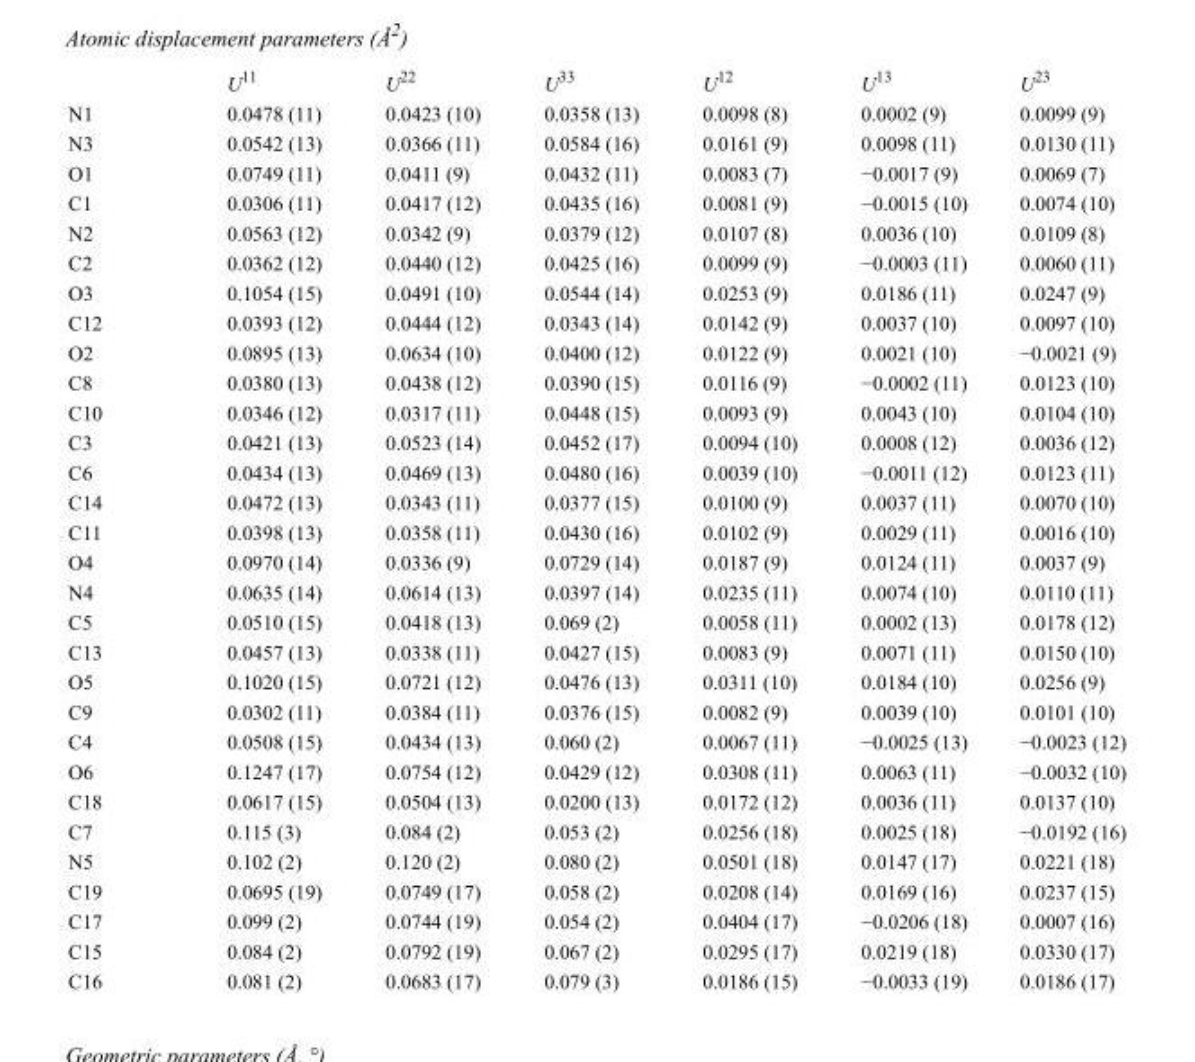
<table><thead><tr><td></td><td>U<sup>11</sup></td><td>U<sup>22</sup></td><td>U<sup>33</sup></td><td>U<sup>12</sup></td><td>U<sup>13</sup></td><td>U<sup>23</sup></td></tr></thead><tbody><tr><td>N1</td><td>0.0478 (11)</td><td>0.0423 (10)</td><td>0.0358 (13)</td><td>0.0098 (8)</td><td>0.0002 (9)</td><td>0.0099 (9)</td></tr><tr><td>N3</td><td>0.0542 (13)</td><td>0.0366 (11)</td><td>0.0584 (16)</td><td>0.0161 (9)</td><td>0.0098 (11)</td><td>0.0130 (11)</td></tr><tr><td>O1</td><td>0.0749 (11)</td><td>0.0411 (9)</td><td>0.0432 (11)</td><td>0.0083 (7)</td><td>−0.0017 (9)</td><td>0.0069 (7)</td></tr><tr><td>C1</td><td>0.0306 (11)</td><td>0.0417 (12)</td><td>0.0435 (16)</td><td>0.0081 (9)</td><td>−0.0015 (10)</td><td>0.0074 (10)</td></tr><tr><td>N2</td><td>0.0563 (12)</td><td>0.0342 (9)</td><td>0.0379 (12)</td><td>0.0107 (8)</td><td>0.0036 (10)</td><td>0.0109 (8)</td></tr><tr><td>C2</td><td>0.0362 (12)</td><td>0.0440 (12)</td><td>0.0425 (16)</td><td>0.0099 (9)</td><td>−0.0003 (11)</td><td>0.0060 (11)</td></tr><tr><td>O3</td><td>0.1054 (15)</td><td>0.0491 (10)</td><td>0.0544 (14)</td><td>0.0253 (9)</td><td>0.0186 (11)</td><td>0.0247 (9)</td></tr><tr><td>C12</td><td>0.0393 (12)</td><td>0.0444 (12)</td><td>0.0343 (14)</td><td>0.0142 (9)</td><td>0.0037 (10)</td><td>0.0097 (10)</td></tr><tr><td>O2</td><td>0.0895 (13)</td><td>0.0634 (10)</td><td>0.0400 (12)</td><td>0.0122 (9)</td><td>0.0021 (10)</td><td>−0.0021 (9)</td></tr><tr><td>C8</td><td>0.0380 (13)</td><td>0.0438 (12)</td><td>0.0390 (15)</td><td>0.0116 (9)</td><td>−0.0002 (11)</td><td>0.0123 (10)</td></tr><tr><td>C10</td><td>0.0346 (12)</td><td>0.0317 (11)</td><td>0.0448 (15)</td><td>0.0093 (9)</td><td>0.0043 (10)</td><td>0.0104 (10)</td></tr><tr><td>C3</td><td>0.0421 (13)</td><td>0.0523 (14)</td><td>0.0452 (17)</td><td>0.0094 (10)</td><td>0.0008 (12)</td><td>0.0036 (12)</td></tr><tr><td>C6</td><td>0.0434 (13)</td><td>0.0469 (13)</td><td>0.0480 (16)</td><td>0.0039 (10)</td><td>−0.0011 (12)</td><td>0.0123 (11)</td></tr><tr><td>C14</td><td>0.0472 (13)</td><td>0.0343 (11)</td><td>0.0377 (15)</td><td>0.0100 (9)</td><td>0.0037 (11)</td><td>0.0070 (10)</td></tr><tr><td>C11</td><td>0.0398 (13)</td><td>0.0358 (11)</td><td>0.0430 (16)</td><td>0.0102 (9)</td><td>0.0029 (11)</td><td>0.0016 (10)</td></tr><tr><td>O4</td><td>0.0970 (14)</td><td>0.0336 (9)</td><td>0.0729 (14)</td><td>0.0187 (9)</td><td>0.0124 (11)</td><td>0.0037 (9)</td></tr><tr><td>N4</td><td>0.0635 (14)</td><td>0.0614 (13)</td><td>0.0397 (14)</td><td>0.0235 (11)</td><td>0.0074 (10)</td><td>0.0110 (11)</td></tr><tr><td>C5</td><td>0.0510 (15)</td><td>0.0418 (13)</td><td>0.069 (2)</td><td>0.0058 (11)</td><td>0.0002 (13)</td><td>0.0178 (12)</td></tr><tr><td>C13</td><td>0.0457 (13)</td><td>0.0338 (11)</td><td>0.0427 (15)</td><td>0.0083 (9)</td><td>0.0071 (11)</td><td>0.0150 (10)</td></tr><tr><td>O5</td><td>0.1020 (15)</td><td>0.0721 (12)</td><td>0.0476 (13)</td><td>0.0311 (10)</td><td>0.0184 (10)</td><td>0.0256 (9)</td></tr><tr><td>C9</td><td>0.0302 (11)</td><td>0.0384 (11)</td><td>0.0376 (15)</td><td>0.0082 (9)</td><td>0.0039 (10)</td><td>0.0101 (10)</td></tr><tr><td>C4</td><td>0.0508 (15)</td><td>0.0434 (13)</td><td>0.060 (2)</td><td>0.0067 (11)</td><td>−0.0025 (13)</td><td>−0.0023 (12)</td></tr><tr><td>O6</td><td>0.1247 (17)</td><td>0.0754 (12)</td><td>0.0429 (12)</td><td>0.0308 (11)</td><td>0.0063 (11)</td><td>−0.0032 (10)</td></tr><tr><td>C18</td><td>0.0617 (15)</td><td>0.0504 (13)</td><td>0.0200 (13)</td><td>0.0172 (12)</td><td>0.0036 (11)</td><td>0.0137 (10)</td></tr><tr><td>C7</td><td>0.115 (3)</td><td>0.084 (2)</td><td>0.053 (2)</td><td>0.0256 (18)</td><td>0.0025 (18)</td><td>−0.0192 (16)</td></tr><tr><td>N5</td><td>0.102 (2)</td><td>0.120 (2)</td><td>0.080 (2)</td><td>0.0501 (18)</td><td>0.0147 (17)</td><td>0.0221 (18)</td></tr><tr><td>C19</td><td>0.0695 (19)</td><td>0.0749 (17)</td><td>0.058 (2)</td><td>0.0208 (14)</td><td>0.0169 (16)</td><td>0.0237 (15)</td></tr><tr><td>C17</td><td>0.099 (2)</td><td>0.0744 (19)</td><td>0.054 (2)</td><td>0.0404 (17)</td><td>−0.0206 (18)</td><td>0.0007 (16)</td></tr><tr><td>C15</td><td>0.084 (2)</td><td>0.0792 (19)</td><td>0.067 (2)</td><td>0.0295 (17)</td><td>0.0219 (18)</td><td>0.0330 (17)</td></tr><tr><td>C16</td><td>0.081 (2)</td><td>0.0683 (17)</td><td>0.079 (3)</td><td>0.0186 (15)</td><td>−0.0033 (19)</td><td>0.0186 (17)</td></tr></tbody></table>